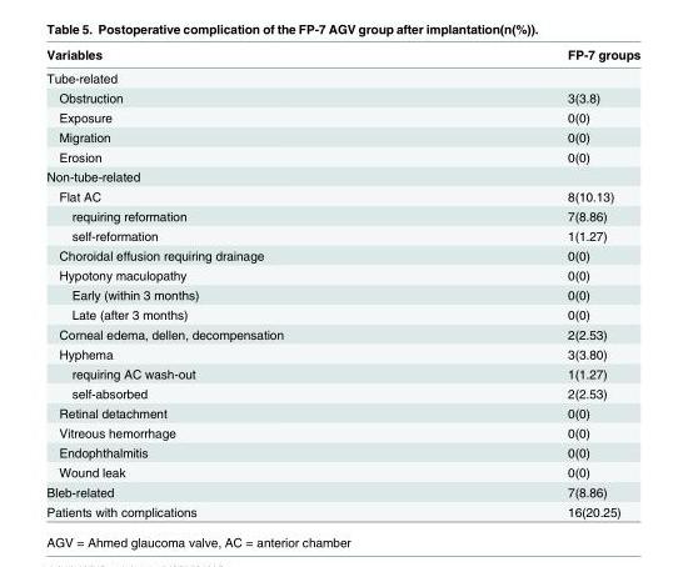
<table><thead><tr><td>Variables</td><td>FP-7 groups</td></tr></thead><tbody><tr><td colspan="2">Tube-related</td></tr><tr><td>Obstruction</td><td>3(3.8)</td></tr><tr><td>Exposure</td><td>0(0)</td></tr><tr><td>Migration</td><td>0(0)</td></tr><tr><td>Erosion</td><td>0(0)</td></tr><tr><td colspan="2">Non-tube-related</td></tr><tr><td>Flat AC</td><td>8(10.13)</td></tr><tr><td>requiring reformation</td><td>7(8.86)</td></tr><tr><td>self-reformation</td><td>1(1.27)</td></tr><tr><td>Choroidal effusion requiring drainage</td><td>0(0)</td></tr><tr><td>Hypotony maculopathy</td><td>0(0)</td></tr><tr><td>Early (within 3 months)</td><td>0(0)</td></tr><tr><td>Late (after 3 months)</td><td>0(0)</td></tr><tr><td>Corneal edema, dellen, decompensation</td><td>2(2.53)</td></tr><tr><td>Hyphema</td><td>3(3.80)</td></tr><tr><td>requiring AC wash-out</td><td>1(1.27)</td></tr><tr><td>self-absorbed</td><td>2(2.53)</td></tr><tr><td>Retinal detachment</td><td>0(0)</td></tr><tr><td>Vitreous hemorrhage</td><td>0(0)</td></tr><tr><td>Endophthalmitis</td><td>0(0)</td></tr><tr><td>Wound leak</td><td>0(0)</td></tr><tr><td>Bleb-related</td><td>7(8.86)</td></tr><tr><td>Patients with complications</td><td>16(20.25)</td></tr></tbody></table>